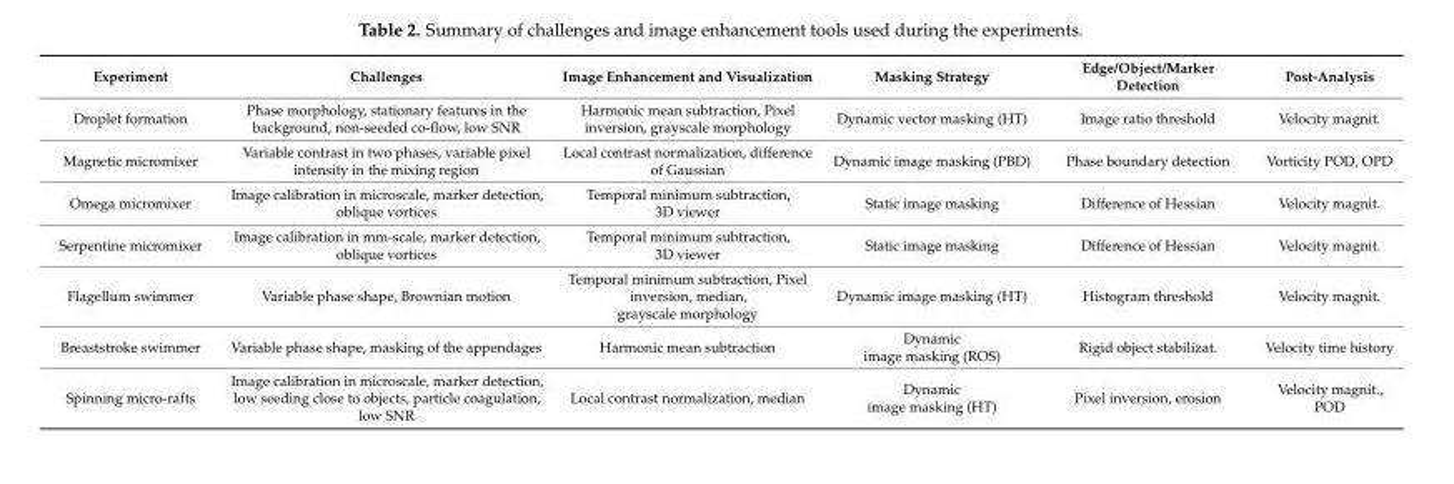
<table><thead><tr><td>Experiment</td><td>Challenges</td><td>Image Enhancement and Visualization</td><td>Masking Strategy</td><td>Edge/Object/Marker Detection</td><td>Post-Analysis</td></tr></thead><tbody><tr><td>Droplet formation</td><td>Phase morphology, stationary features in the background, non-seeded co-flow, low SNR</td><td>Harmonic mean subtraction, Pixel inversion, grayscale morphology</td><td>Dynamic vector masking (HT)</td><td>Image ratio threshold</td><td>Velocity magnit.</td></tr><tr><td>Magnetic micromixer</td><td>Variable contrast in two phases, variable pixel intensity in the mixing region</td><td>Local contrast normalization, difference of Gaussian</td><td>Dynamic image masking (PBD)</td><td>Phase boundary detection</td><td>Vorticity POD, OPD</td></tr><tr><td>Omega micromixer</td><td>Image calibration in microscale, marker detection, oblique vortices</td><td>Temporal minimum subtraction, 3D viewer</td><td>Static image masking</td><td>Difference of Hessian</td><td>Velocity magnit.</td></tr><tr><td>Serpentine micromixer</td><td>Image calibration in mm-scale, marker detection, oblique vortices</td><td>Temporal minimum subtraction, 3D viewer</td><td>Static image masking</td><td>Difference of Hessian</td><td>Velocity magnit.</td></tr><tr><td>Flagellum swimmer</td><td>Variable phase shape, Brownian motion</td><td>Temporal minimum subtraction, Pixel inversion, median, grayscale morphology</td><td>Dynamic image masking (HT)</td><td>Histogram threshold</td><td>Velocity magnit.</td></tr><tr><td>Breaststroke swimmer</td><td>Variable phase shape, masking of the appendages</td><td>Harmonic mean subtraction</td><td>Dynamic image masking (ROS)</td><td>Rigid object stabilizat.</td><td>Velocity time history</td></tr><tr><td>Spinning micro-rafts</td><td>Image calibration in microscale, marker detection, low seeding close to objects, particle coagulation, low SNR</td><td>Local contrast normalization, median</td><td>Dynamic image masking (HT)</td><td>Pixel inversion, erosion</td><td>Velocity magnit., POD</td></tr></tbody></table>